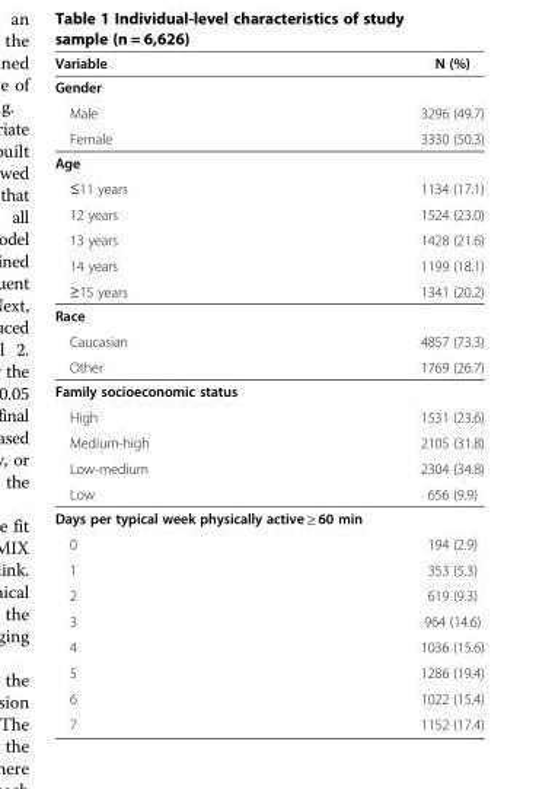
<table><thead><tr><td>Variable</td><td>N (%)</td></tr></thead><tbody><tr><td colspan="2">Gender</td></tr><tr><td>Male</td><td>3296 (49.7)</td></tr><tr><td>Female</td><td>3330 (50.3)</td></tr><tr><td colspan="2">Age</td></tr><tr><td>≤11 years</td><td>1134 (17.1)</td></tr><tr><td>12 years</td><td>1524 (23.0)</td></tr><tr><td>13 years</td><td>1428 (21.6)</td></tr><tr><td>14 years</td><td>1199 (18.1)</td></tr><tr><td>≥15 years</td><td>1341 (20.2)</td></tr><tr><td colspan="2">Race</td></tr><tr><td>Caucasian</td><td>4857 (73.3)</td></tr><tr><td>Other</td><td>1769 (26.7)</td></tr><tr><td colspan="2">Family socioeconomic status</td></tr><tr><td>High</td><td>1531 (23.6)</td></tr><tr><td>Medium-high</td><td>2105 (31.8)</td></tr><tr><td>Low-medium</td><td>2304 (34.8)</td></tr><tr><td>Low</td><td>656 (9.9)</td></tr><tr><td colspan="2">Days per typical week physically active ≥ 60 min</td></tr><tr><td>0</td><td>194 (2.9)</td></tr><tr><td>1</td><td>353 (5.3)</td></tr><tr><td>2</td><td>619 (9.3)</td></tr><tr><td>3</td><td>964 (14.6)</td></tr><tr><td>4</td><td>1036 (15.6)</td></tr><tr><td>5</td><td>1286 (19.4)</td></tr><tr><td>6</td><td>1022 (15.4)</td></tr><tr><td>7</td><td>1152 (17.4)</td></tr></tbody></table>